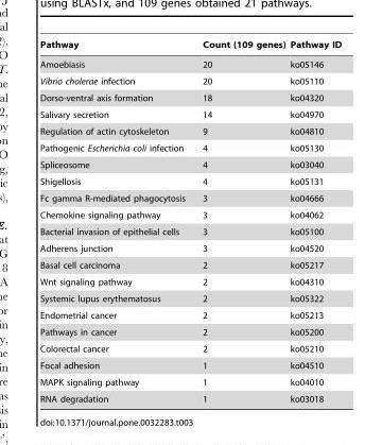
<table><thead><tr><td>Pathway</td><td>Count (109 genes)</td><td>Pathway ID</td></tr></thead><tbody><tr><td>Amoebiasis</td><td>20</td><td>ko05146</td></tr><tr><td>Vibrio cholerae infection</td><td>20</td><td>ko05110</td></tr><tr><td>Dorso-ventral axis formation</td><td>18</td><td>ko04320</td></tr><tr><td>Salivary secretion</td><td>14</td><td>ko04970</td></tr><tr><td>Regulation of actin cytoskeleton</td><td>9</td><td>ko04810</td></tr><tr><td>Pathogenic Escherichia coli infection</td><td>4</td><td>ko05130</td></tr><tr><td>Spliceosome</td><td>4</td><td>ko03040</td></tr><tr><td>Shigellosis</td><td>4</td><td>ko05131</td></tr><tr><td>Fc gamma R-mediated phagocytosis</td><td>3</td><td>ko04666</td></tr><tr><td>Chemokine signaling pathway</td><td>3</td><td>ko04062</td></tr><tr><td>Bacterial invasion of epithelial cells</td><td>3</td><td>ko05100</td></tr><tr><td>Adherens junction</td><td>3</td><td>ko04520</td></tr><tr><td>Basal cell carcinoma</td><td>2</td><td>ko05217</td></tr><tr><td>Wnt signaling pathway</td><td>2</td><td>ko04310</td></tr><tr><td>Systemic lupus erythematosus</td><td>2</td><td>ko05322</td></tr><tr><td>Endometrial cancer</td><td>2</td><td>ko05213</td></tr><tr><td>Pathways in cancer</td><td>2</td><td>ko05200</td></tr><tr><td>Colorectal cancer</td><td>2</td><td>ko05210</td></tr><tr><td>Focal adhesion</td><td>1</td><td>ko04510</td></tr><tr><td>MAPK signaling pathway</td><td>1</td><td>ko04010</td></tr><tr><td>RNA degradation</td><td>1</td><td>ko03018</td></tr></tbody></table>